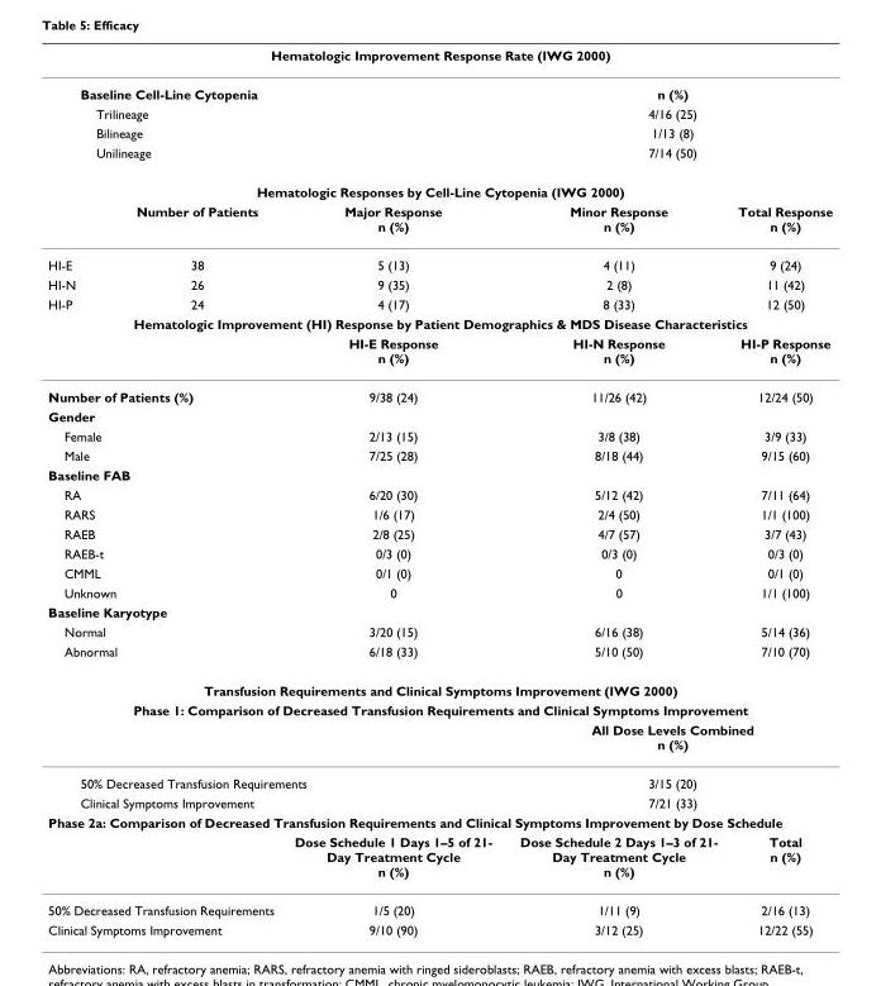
<table><thead><tr><td colspan="5">Hematologic Improvement Response Rate (IWG 2000)</td></tr></thead><tbody><tr><td colspan="3">Baseline Cell-Line Cytopenia</td><td colspan="2">n (%)</td></tr><tr><td colspan="3">Trilineage</td><td colspan="2">4/16 (25)</td></tr><tr><td colspan="3">Bilineage</td><td colspan="2">1/13 (8)</td></tr><tr><td colspan="3">Unilineage</td><td colspan="2">7/14 (50)</td></tr><tr><td colspan="5">Hematologic Responses by Cell-Line Cytopenia (IWG 2000)</td></tr><tr><td></td><td>Number of Patients</td><td>Major Response n (%)</td><td>Minor Response n (%)</td><td>Total Response n (%)</td></tr><tr><td>HI-E</td><td>38</td><td>5 (13)</td><td>4 (11)</td><td>9 (24)</td></tr><tr><td>HI-N</td><td>26</td><td>9 (35)</td><td>2 (8)</td><td>11 (42)</td></tr><tr><td>HI-P</td><td>24</td><td>4 (17)</td><td>8 (33)</td><td>12 (50)</td></tr><tr><td colspan="5">Hematologic Improvement (HI) Response by Patient Demographics &amp; MDS Disease Characteristics</td></tr><tr><td></td><td></td><td>HI-E Response n (%)</td><td>HI-N Response n (%)</td><td>HI-P Response n (%)</td></tr><tr><td colspan="2">Number of Patients (%)</td><td>9/38 (24)</td><td>11/26 (42)</td><td>12/24 (50)</td></tr><tr><td colspan="5">Gender</td></tr><tr><td colspan="2">Female</td><td>2/13 (15)</td><td>3/8 (38)</td><td>3/9 (33)</td></tr><tr><td colspan="2">Male</td><td>7/25 (28)</td><td>8/18 (44)</td><td>9/15 (60)</td></tr><tr><td colspan="5">Baseline FAB</td></tr><tr><td colspan="2">RA</td><td>6/20 (30)</td><td>5/12 (42)</td><td>7/11 (64)</td></tr><tr><td colspan="2">RARS</td><td>1/6 (17)</td><td>2/4 (50)</td><td>1/1 (100)</td></tr><tr><td colspan="2">RAEB</td><td>2/8 (25)</td><td>4/7 (57)</td><td>3/7 (43)</td></tr><tr><td colspan="2">RAEB-t</td><td>0/3 (0)</td><td>0/3 (0)</td><td>0/3 (0)</td></tr><tr><td colspan="2">CMML</td><td>0/1 (0)</td><td>0</td><td>0/1 (0)</td></tr><tr><td colspan="2">Unknown</td><td>0</td><td>0</td><td>1/1 (100)</td></tr><tr><td colspan="5">Baseline Karyotype</td></tr><tr><td colspan="2">Normal</td><td>3/20 (15)</td><td>6/16 (38)</td><td>5/14 (36)</td></tr><tr><td colspan="2">Abnormal</td><td>6/18 (33)</td><td>5/10 (50)</td><td>7/10 (70)</td></tr><tr><td colspan="5">Transfusion Requirements and Clinical Symptoms Improvement (IWG 2000)</td></tr><tr><td colspan="5">Phase 1: Comparison of Decreased Transfusion Requirements and Clinical Symptoms Improvement</td></tr><tr><td></td><td></td><td></td><td colspan="2">All Dose Levels Combined n (%)</td></tr><tr><td colspan="3">50% Decreased Transfusion Requirements</td><td colspan="2">3/15 (20)</td></tr><tr><td colspan="3">Clinical Symptoms Improvement</td><td colspan="2">7/21 (33)</td></tr><tr><td colspan="5">Phase 2a: Comparison of Decreased Transfusion Requirements and Clinical Symptoms Improvement by Dose Schedule</td></tr><tr><td></td><td></td><td>Dose Schedule 1 Days 1–5 of 21- Day Treatment Cycle n (%)</td><td>Dose Schedule 2 Days 1–3 of 21- Day Treatment Cycle n (%)</td><td>Total n (%)</td></tr><tr><td colspan="2">50% Decreased Transfusion Requirements</td><td>1/5 (20)</td><td>1/11 (9)</td><td>2/16 (13)</td></tr><tr><td colspan="2">Clinical Symptoms Improvement</td><td>9/10 (90)</td><td>3/12 (25)</td><td>12/22 (55)</td></tr></tbody></table>